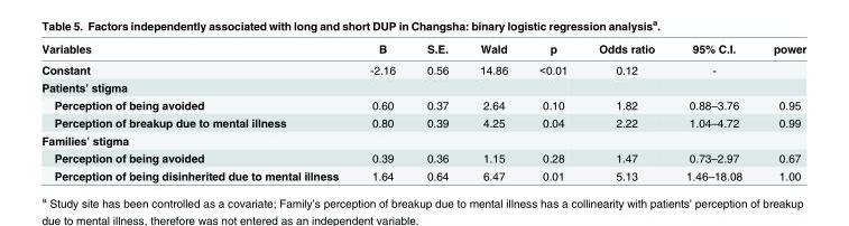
<table><thead><tr><td>Variables</td><td>B</td><td>S.E.</td><td>Wald</td><td>p</td><td>Odds ratio</td><td>95% C.I.</td><td>power</td></tr></thead><tbody><tr><td>Constant</td><td>-2.16</td><td>0.56</td><td>14.86</td><td>&lt;0.01</td><td>0.12</td><td>-</td><td></td></tr><tr><td colspan="8">Patients’ stigma</td></tr><tr><td>Perception of being avoided</td><td>0.60</td><td>0.37</td><td>2.64</td><td>0.10</td><td>1.82</td><td>0.88–3.76</td><td>0.95</td></tr><tr><td>Perception of breakup due to mental illness</td><td>0.80</td><td>0.39</td><td>4.25</td><td>0.04</td><td>2.22</td><td>1.04–4.72</td><td>0.99</td></tr><tr><td colspan="8">Families’ stigma</td></tr><tr><td>Perception of being avoided</td><td>0.39</td><td>0.36</td><td>1.15</td><td>0.28</td><td>1.47</td><td>0.73–2.97</td><td>0.67</td></tr><tr><td>Perception of being disinherited due to mental illness</td><td>1.64</td><td>0.64</td><td>6.47</td><td>0.01</td><td>5.13</td><td>1.46–18.08</td><td>1.00</td></tr></tbody></table>